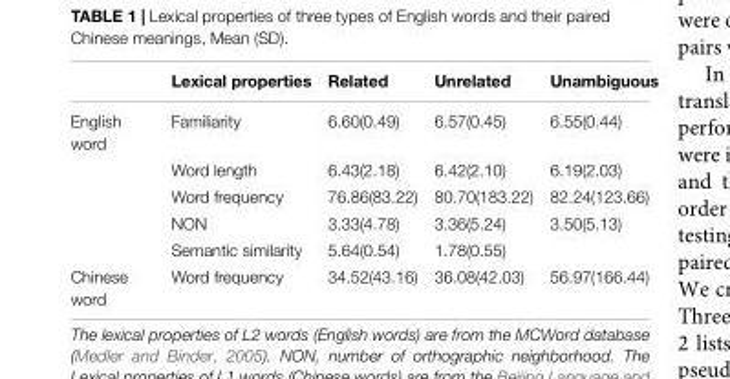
<table><thead><tr><td></td><td>Lexical properties</td><td>Related</td><td>Unrelated</td><td>Unambiguous</td></tr></thead><tbody><tr><td rowspan="5">English word</td><td>Familiarity</td><td>6.60(0.49)</td><td>6.57(0.45)</td><td>6.55(0.44)</td></tr><tr><td>Word length</td><td>6.43(2.18)</td><td>6.42(2.10)</td><td>6.19(2.03)</td></tr><tr><td>Word frequency</td><td>76.86(83.22)</td><td>80.70(183.22)</td><td>82.24(123.66)</td></tr><tr><td>NON</td><td>3.33(4.78)</td><td>3.36(5.24)</td><td>3.50(5.13)</td></tr><tr><td>Semantic similarity</td><td>5.64(0.54)</td><td>1.78(0.55)</td><td></td></tr><tr><td>Chinese word</td><td>Word frequency</td><td>34.52(43.16)</td><td>36.08(42.03)</td><td>56.97(166.44)</td></tr></tbody></table>